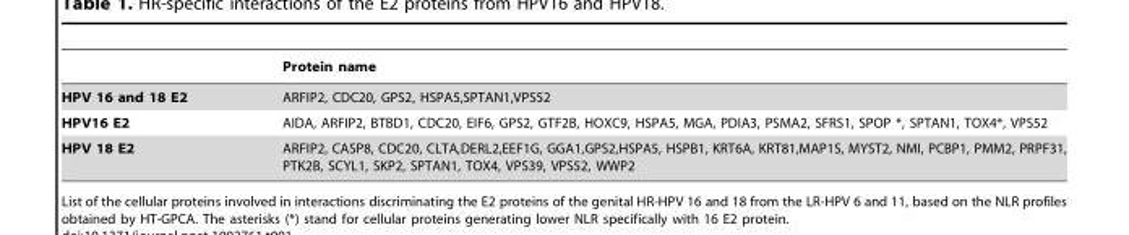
<table><thead><tr><td></td><td>Protein name</td></tr></thead><tbody><tr><td>HPV 16 and 18 E2</td><td>ARFIP2, CDC20, GPS2, HSPA5,SPTAN1,VPS52</td></tr><tr><td>HPV16 E2</td><td>AIDA, ARFIP2, BTBD1, CDC20, EIF6, GPS2, GTF2B, HOXC9, HSPA5, MGA, PDIA3, PSMA2, SFRS1, SPOP *, SPTAN1, TOX4*, VPS52</td></tr><tr><td>HPV 18 E2</td><td>ARFIP2, CASP8, CDC20, CLTA,DERL2,EEF1G, GGA1,GPS2,HSPA5, HSPB1, KRT6A, KRT81,MAP1S, MYST2, NMI, PCBP1, PMM2, PRPF31, PTK2B, SCYL1, SKP2, SPTAN1, TOX4, VPS39, VPS52, WWP2</td></tr></tbody></table>